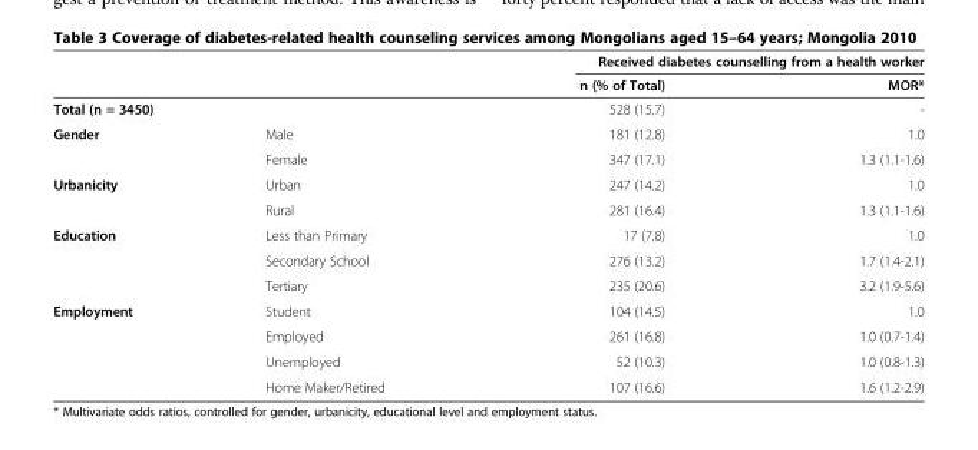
<table><thead><tr><td rowspan="2"></td><td rowspan="2"></td><td colspan="2">Received diabetes counselling from a health worker</td></tr><tr><td>n (% of Total)</td><td>MOR*</td></tr></thead><tbody><tr><td>Total (n = 3450)</td><td></td><td>528 (15.7)</td><td>-</td></tr><tr><td rowspan="2">Gender</td><td>Male</td><td>181 (12.8)</td><td>1.0</td></tr><tr><td>Female</td><td>347 (17.1)</td><td>1.3 (1.1-1.6)</td></tr><tr><td rowspan="2">Urbanicity</td><td>Urban</td><td>247 (14.2)</td><td>1.0</td></tr><tr><td>Rural</td><td>281 (16.4)</td><td>1.3 (1.1-1.6)</td></tr><tr><td rowspan="3">Education</td><td>Less than Primary</td><td>17 (7.8)</td><td>1.0</td></tr><tr><td>Secondary School</td><td>276 (13.2)</td><td>1.7 (1.4-2.1)</td></tr><tr><td>Tertiary</td><td>235 (20.6)</td><td>3.2 (1.9-5.6)</td></tr><tr><td rowspan="4">Employment</td><td>Student</td><td>104 (14.5)</td><td>1.0</td></tr><tr><td>Employed</td><td>261 (16.8)</td><td>1.0 (0.7-1.4)</td></tr><tr><td>Unemployed</td><td>52 (10.3)</td><td>1.0 (0.8-1.3)</td></tr><tr><td>Home Maker/Retired</td><td>107 (16.6)</td><td>1.6 (1.2-2.9)</td></tr></tbody></table>